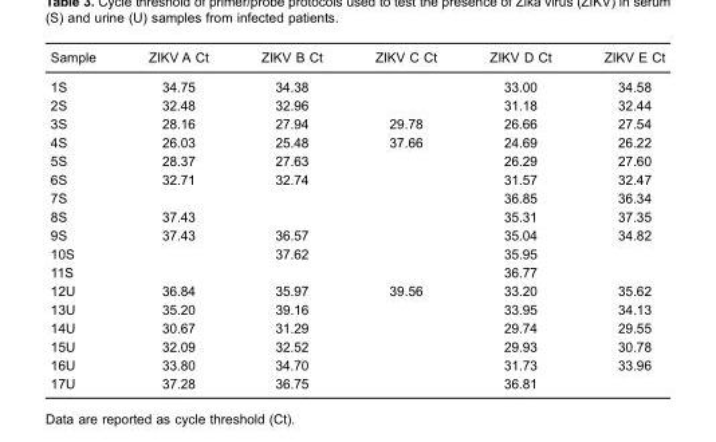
<table><thead><tr><td>Sample</td><td>ZIKV A Ct</td><td>ZIKV B Ct</td><td>ZIKV C Ct</td><td>ZIKV D Ct</td><td>ZIKV E Ct</td></tr></thead><tbody><tr><td>1S</td><td>34.75</td><td>34.38</td><td></td><td>33.00</td><td>34.58</td></tr><tr><td>2S</td><td>32.48</td><td>32.96</td><td></td><td>31.18</td><td>32.44</td></tr><tr><td>3S</td><td>28.16</td><td>27.94</td><td>29.78</td><td>26.66</td><td>27.54</td></tr><tr><td>4S</td><td>26.03</td><td>25.48</td><td>37.66</td><td>24.69</td><td>26.22</td></tr><tr><td>5S</td><td>28.37</td><td>27.63</td><td></td><td>26.29</td><td>27.60</td></tr><tr><td>6S</td><td>32.71</td><td>32.74</td><td></td><td>31.57</td><td>32.47</td></tr><tr><td>7S</td><td></td><td></td><td></td><td>36.85</td><td>36.34</td></tr><tr><td>8S</td><td>37.43</td><td></td><td></td><td>35.31</td><td>37.35</td></tr><tr><td>9S</td><td>37.43</td><td>36.57</td><td></td><td>35.04</td><td>34.82</td></tr><tr><td>10S</td><td></td><td>37.62</td><td></td><td>35.95</td><td></td></tr><tr><td>11S</td><td></td><td></td><td></td><td>36.77</td><td></td></tr><tr><td>12U</td><td>36.84</td><td>35.97</td><td>39.56</td><td>33.20</td><td>35.62</td></tr><tr><td>13U</td><td>35.20</td><td>39.16</td><td></td><td>33.95</td><td>34.13</td></tr><tr><td>14U</td><td>30.67</td><td>31.29</td><td></td><td>29.74</td><td>29.55</td></tr><tr><td>15U</td><td>32.09</td><td>32.52</td><td></td><td>29.93</td><td>30.78</td></tr><tr><td>16U</td><td>33.80</td><td>34.70</td><td></td><td>31.73</td><td>33.96</td></tr><tr><td>17U</td><td>37.28</td><td>36.75</td><td></td><td>36.81</td><td></td></tr></tbody></table>